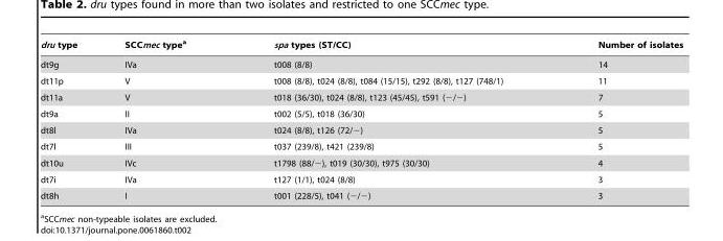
<table><thead><tr><td>dru type</td><td>SCCmec type<sup>a</sup></td><td>spa types (ST/CC)</td><td>Number of isolates</td></tr></thead><tbody><tr><td>dt9g</td><td>IVa</td><td>t008 (8/8)</td><td>14</td></tr><tr><td>dt11p</td><td>V</td><td>t008 (8/8), t024 (8/8), t084 (15/15), t292 (8/8), t127 (748/1)</td><td>11</td></tr><tr><td>dt11a</td><td>V</td><td>t018 (36/30), t024 (8/8), t123 (45/45), t591 (−/−)</td><td>7</td></tr><tr><td>dt9a</td><td>II</td><td>t002 (5/5), t018 (36/30)</td><td>5</td></tr><tr><td>dt8l</td><td>IVa</td><td>t024 (8/8), t126 (72/−)</td><td>5</td></tr><tr><td>dt7l</td><td>III</td><td>t037 (239/8), t421 (239/8)</td><td>5</td></tr><tr><td>dt10u</td><td>IVc</td><td>t1798 (88/−), t019 (30/30), t975 (30/30)</td><td>4</td></tr><tr><td>dt7i</td><td>IVa</td><td>t127 (1/1), t024 (8/8)</td><td>3</td></tr><tr><td>dt8h</td><td>I</td><td>t001 (228/5), t041 (−/−)</td><td>3</td></tr></tbody></table>